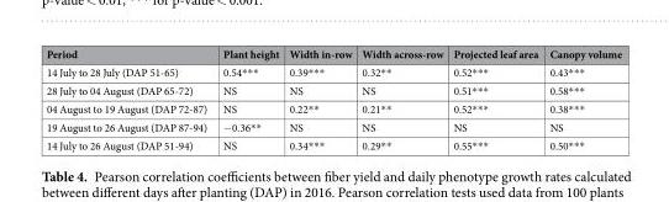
<table><thead><tr><td>Period</td><td>Plant height</td><td>Width in-row</td><td>Width across-row</td><td>Projected leaf area</td><td>Canopy volume</td></tr></thead><tbody><tr><td>14 July to 28 July (DAP 51-65)</td><td>0.54***</td><td>0.39***</td><td>0.32**</td><td>0.52***</td><td>0.43***</td></tr><tr><td>28 July to 04 August (DAP 65-72)</td><td>NS</td><td>NS</td><td>NS</td><td>0.51***</td><td>0.58***</td></tr><tr><td>04 August to 19 August (DAP 72-87)</td><td>NS</td><td>0.22**</td><td>0.21**</td><td>0.52***</td><td>0.38***</td></tr><tr><td>19 August to 26 August (DAP 87-94)</td><td>−0.36**</td><td>NS</td><td>NS</td><td>NS</td><td>NS</td></tr><tr><td>14 July to 26 August (DAP 51-94)</td><td>NS</td><td>0.34***</td><td>0.29**</td><td>0.55***</td><td>0.50***</td></tr></tbody></table>